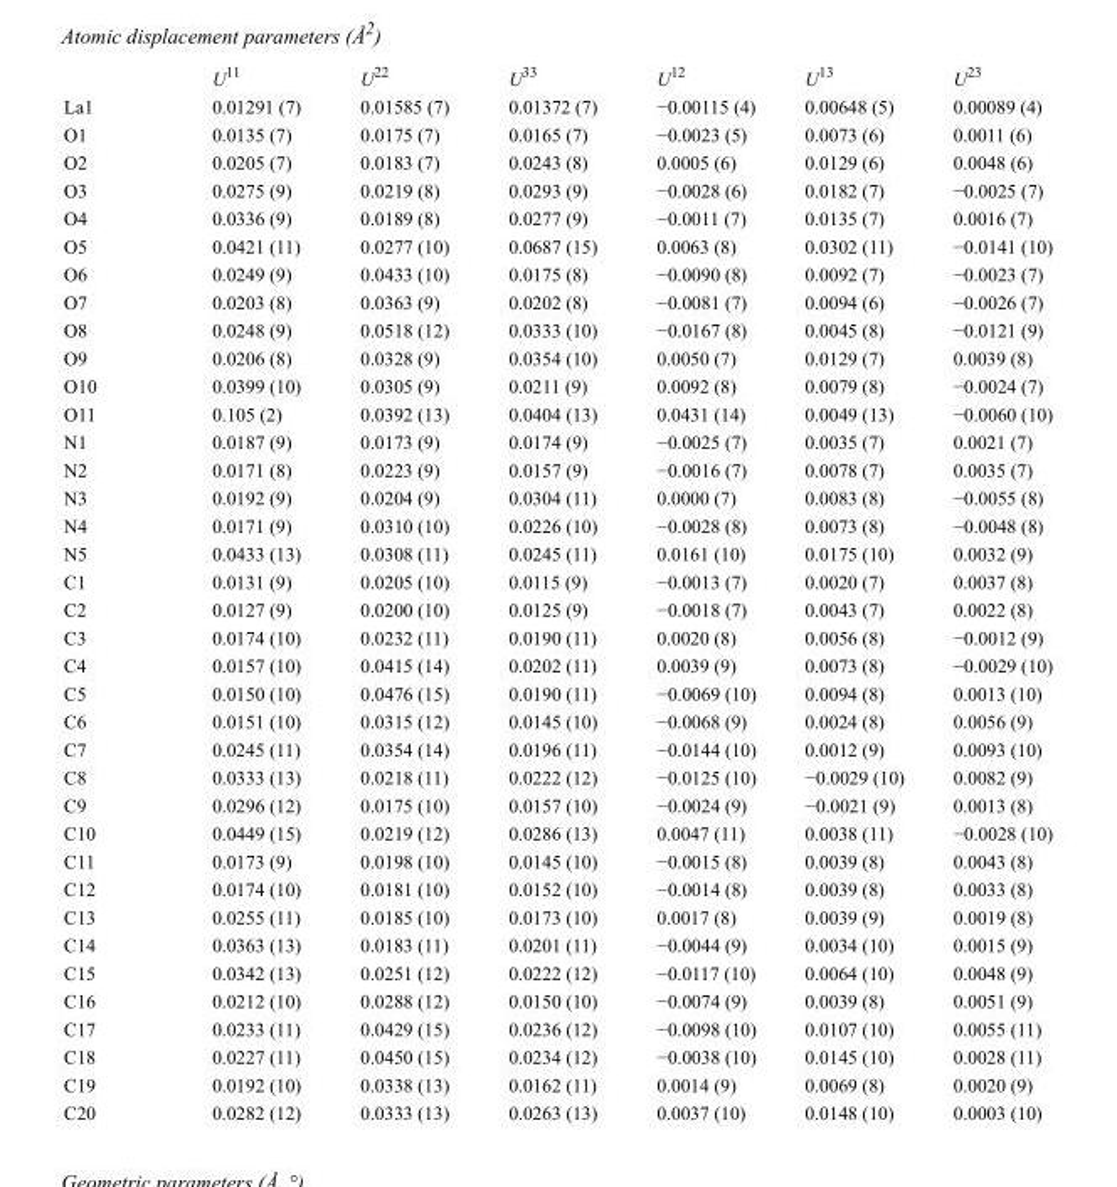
<table><thead><tr><td></td><td>U<sup>11</sup></td><td>U<sup>22</sup></td><td>U<sup>33</sup></td><td>U<sup>12</sup></td><td>U<sup>13</sup></td><td>U<sup>23</sup></td></tr></thead><tbody><tr><td>La1</td><td>0.01291 (7)</td><td>0.01585 (7)</td><td>0.01372 (7)</td><td>−0.00115 (4)</td><td>0.00648 (5)</td><td>0.00089 (4)</td></tr><tr><td>O1</td><td>0.0135 (7)</td><td>0.0175 (7)</td><td>0.0165 (7)</td><td>−0.0023 (5)</td><td>0.0073 (6)</td><td>0.0011 (6)</td></tr><tr><td>O2</td><td>0.0205 (7)</td><td>0.0183 (7)</td><td>0.0243 (8)</td><td>0.0005 (6)</td><td>0.0129 (6)</td><td>0.0048 (6)</td></tr><tr><td>O3</td><td>0.0275 (9)</td><td>0.0219 (8)</td><td>0.0293 (9)</td><td>−0.0028 (6)</td><td>0.0182 (7)</td><td>−0.0025 (7)</td></tr><tr><td>O4</td><td>0.0336 (9)</td><td>0.0189 (8)</td><td>0.0277 (9)</td><td>−0.0011 (7)</td><td>0.0135 (7)</td><td>0.0016 (7)</td></tr><tr><td>O5</td><td>0.0421 (11)</td><td>0.0277 (10)</td><td>0.0687 (15)</td><td>0.0063 (8)</td><td>0.0302 (11)</td><td>−0.0141 (10)</td></tr><tr><td>O6</td><td>0.0249 (9)</td><td>0.0433 (10)</td><td>0.0175 (8)</td><td>−0.0090 (8)</td><td>0.0092 (7)</td><td>−0.0023 (7)</td></tr><tr><td>O7</td><td>0.0203 (8)</td><td>0.0363 (9)</td><td>0.0202 (8)</td><td>−0.0081 (7)</td><td>0.0094 (6)</td><td>−0.0026 (7)</td></tr><tr><td>O8</td><td>0.0248 (9)</td><td>0.0518 (12)</td><td>0.0333 (10)</td><td>−0.0167 (8)</td><td>0.0045 (8)</td><td>−0.0121 (9)</td></tr><tr><td>O9</td><td>0.0206 (8)</td><td>0.0328 (9)</td><td>0.0354 (10)</td><td>0.0050 (7)</td><td>0.0129 (7)</td><td>0.0039 (8)</td></tr><tr><td>O10</td><td>0.0399 (10)</td><td>0.0305 (9)</td><td>0.0211 (9)</td><td>0.0092 (8)</td><td>0.0079 (8)</td><td>−0.0024 (7)</td></tr><tr><td>O11</td><td>0.105 (2)</td><td>0.0392 (13)</td><td>0.0404 (13)</td><td>0.0431 (14)</td><td>0.0049 (13)</td><td>−0.0060 (10)</td></tr><tr><td>N1</td><td>0.0187 (9)</td><td>0.0173 (9)</td><td>0.0174 (9)</td><td>−0.0025 (7)</td><td>0.0035 (7)</td><td>0.0021 (7)</td></tr><tr><td>N2</td><td>0.0171 (8)</td><td>0.0223 (9)</td><td>0.0157 (9)</td><td>−0.0016 (7)</td><td>0.0078 (7)</td><td>0.0035 (7)</td></tr><tr><td>N3</td><td>0.0192 (9)</td><td>0.0204 (9)</td><td>0.0304 (11)</td><td>0.0000 (7)</td><td>0.0083 (8)</td><td>−0.0055 (8)</td></tr><tr><td>N4</td><td>0.0171 (9)</td><td>0.0310 (10)</td><td>0.0226 (10)</td><td>−0.0028 (8)</td><td>0.0073 (8)</td><td>−0.0048 (8)</td></tr><tr><td>N5</td><td>0.0433 (13)</td><td>0.0308 (11)</td><td>0.0245 (11)</td><td>0.0161 (10)</td><td>0.0175 (10)</td><td>0.0032 (9)</td></tr><tr><td>C1</td><td>0.0131 (9)</td><td>0.0205 (10)</td><td>0.0115 (9)</td><td>−0.0013 (7)</td><td>0.0020 (7)</td><td>0.0037 (8)</td></tr><tr><td>C2</td><td>0.0127 (9)</td><td>0.0200 (10)</td><td>0.0125 (9)</td><td>−0.0018 (7)</td><td>0.0043 (7)</td><td>0.0022 (8)</td></tr><tr><td>C3</td><td>0.0174 (10)</td><td>0.0232 (11)</td><td>0.0190 (11)</td><td>0.0020 (8)</td><td>0.0056 (8)</td><td>−0.0012 (9)</td></tr><tr><td>C4</td><td>0.0157 (10)</td><td>0.0415 (14)</td><td>0.0202 (11)</td><td>0.0039 (9)</td><td>0.0073 (8)</td><td>−0.0029 (10)</td></tr><tr><td>C5</td><td>0.0150 (10)</td><td>0.0476 (15)</td><td>0.0190 (11)</td><td>−0.0069 (10)</td><td>0.0094 (8)</td><td>0.0013 (10)</td></tr><tr><td>C6</td><td>0.0151 (10)</td><td>0.0315 (12)</td><td>0.0145 (10)</td><td>−0.0068 (9)</td><td>0.0024 (8)</td><td>0.0056 (9)</td></tr><tr><td>C7</td><td>0.0245 (11)</td><td>0.0354 (14)</td><td>0.0196 (11)</td><td>−0.0144 (10)</td><td>0.0012 (9)</td><td>0.0093 (10)</td></tr><tr><td>C8</td><td>0.0333 (13)</td><td>0.0218 (11)</td><td>0.0222 (12)</td><td>−0.0125 (10)</td><td>−0.0029 (10)</td><td>0.0082 (9)</td></tr><tr><td>C9</td><td>0.0296 (12)</td><td>0.0175 (10)</td><td>0.0157 (10)</td><td>−0.0024 (9)</td><td>−0.0021 (9)</td><td>0.0013 (8)</td></tr><tr><td>C10</td><td>0.0449 (15)</td><td>0.0219 (12)</td><td>0.0286 (13)</td><td>0.0047 (11)</td><td>0.0038 (11)</td><td>−0.0028 (10)</td></tr><tr><td>C11</td><td>0.0173 (9)</td><td>0.0198 (10)</td><td>0.0145 (10)</td><td>−0.0015 (8)</td><td>0.0039 (8)</td><td>0.0043 (8)</td></tr><tr><td>C12</td><td>0.0174 (10)</td><td>0.0181 (10)</td><td>0.0152 (10)</td><td>−0.0014 (8)</td><td>0.0039 (8)</td><td>0.0033 (8)</td></tr><tr><td>C13</td><td>0.0255 (11)</td><td>0.0185 (10)</td><td>0.0173 (10)</td><td>0.0017 (8)</td><td>0.0039 (9)</td><td>0.0019 (8)</td></tr><tr><td>C14</td><td>0.0363 (13)</td><td>0.0183 (11)</td><td>0.0201 (11)</td><td>−0.0044 (9)</td><td>0.0034 (10)</td><td>0.0015 (9)</td></tr><tr><td>C15</td><td>0.0342 (13)</td><td>0.0251 (12)</td><td>0.0222 (12)</td><td>−0.0117 (10)</td><td>0.0064 (10)</td><td>0.0048 (9)</td></tr><tr><td>C16</td><td>0.0212 (10)</td><td>0.0288 (12)</td><td>0.0150 (10)</td><td>−0.0074 (9)</td><td>0.0039 (8)</td><td>0.0051 (9)</td></tr><tr><td>C17</td><td>0.0233 (11)</td><td>0.0429 (15)</td><td>0.0236 (12)</td><td>−0.0098 (10)</td><td>0.0107 (10)</td><td>0.0055 (11)</td></tr><tr><td>C18</td><td>0.0227 (11)</td><td>0.0450 (15)</td><td>0.0234 (12)</td><td>−0.0038 (10)</td><td>0.0145 (10)</td><td>0.0028 (11)</td></tr><tr><td>C19</td><td>0.0192 (10)</td><td>0.0338 (13)</td><td>0.0162 (11)</td><td>0.0014 (9)</td><td>0.0069 (8)</td><td>0.0020 (9)</td></tr><tr><td>C20</td><td>0.0282 (12)</td><td>0.0333 (13)</td><td>0.0263 (13)</td><td>0.0037 (10)</td><td>0.0148 (10)</td><td>0.0003 (10)</td></tr></tbody></table>